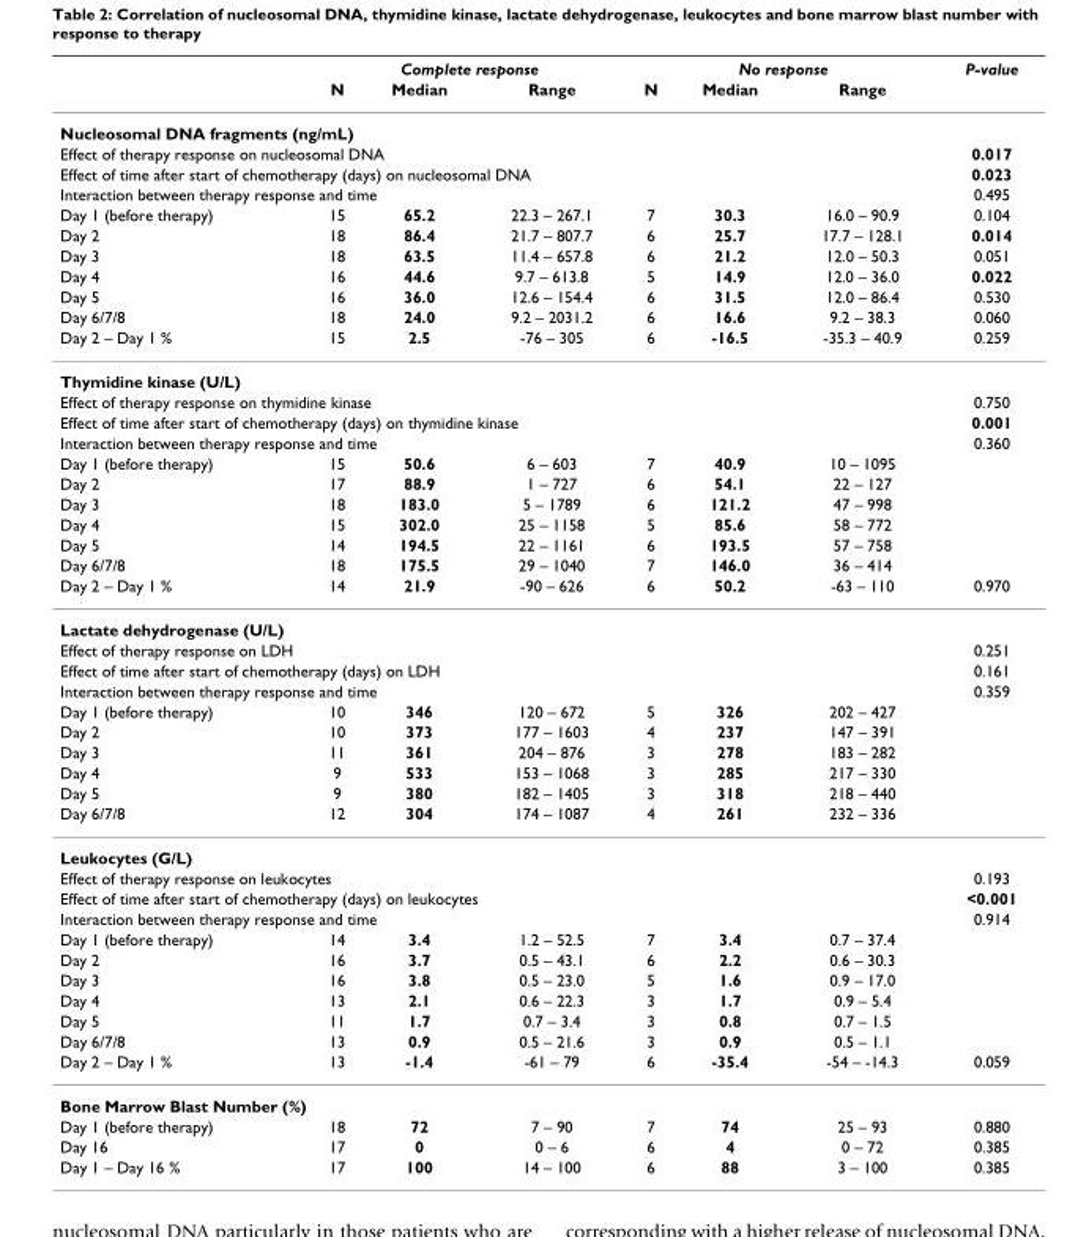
<table><thead><tr><td rowspan="2"></td><td colspan="3">Complete response</td><td colspan="3">No response</td><td rowspan="2">P-value</td></tr><tr><td>N</td><td>Median</td><td>Range</td><td>N</td><td>Median</td><td>Range</td></tr></thead><tbody><tr><td colspan="8">Nucleosomal DNA fragments (ng/mL)</td></tr><tr><td colspan="7">Effect of therapy response on nucleosomal DNA</td><td>0.017</td></tr><tr><td colspan="7">Effect of time after start of chemotherapy (days) on nucleosomal DNA</td><td>0.023</td></tr><tr><td colspan="7">Interaction between therapy response and time</td><td>0.495</td></tr><tr><td>Day 1 (before therapy)</td><td>15</td><td>65.2</td><td>22.3 – 267.1</td><td>7</td><td>30.3</td><td>16.0 – 90.9</td><td>0.104</td></tr><tr><td>Day 2</td><td>18</td><td>86.4</td><td>21.7 – 807.7</td><td>6</td><td>25.7</td><td>17.7 – 128.1</td><td>0.014</td></tr><tr><td>Day 3</td><td>18</td><td>63.5</td><td>11.4 – 657.8</td><td>6</td><td>21.2</td><td>12.0 – 50.3</td><td>0.051</td></tr><tr><td>Day 4</td><td>16</td><td>44.6</td><td>9.7 – 613.8</td><td>5</td><td>14.9</td><td>12.0 – 36.0</td><td>0.022</td></tr><tr><td>Day 5</td><td>16</td><td>36.0</td><td>12.6 – 154.4</td><td>6</td><td>31.5</td><td>12.0 – 86.4</td><td>0.530</td></tr><tr><td>Day 6/7/8</td><td>18</td><td>24.0</td><td>9.2 – 2031.2</td><td>6</td><td>16.6</td><td>9.2 – 38.3</td><td>0.060</td></tr><tr><td>Day 2 – Day 1 %</td><td>15</td><td>2.5</td><td>-76 – 305</td><td>6</td><td>-16.5</td><td>-35.3 – 40.9</td><td>0.259</td></tr><tr><td colspan="8">Thymidine kinase (U/L)</td></tr><tr><td colspan="7">Effect of therapy response on thymidine kinase</td><td>0.750</td></tr><tr><td colspan="7">Effect of time after start of chemotherapy (days) on thymidine kinase</td><td>0.001</td></tr><tr><td colspan="7">Interaction between therapy response and time</td><td>0.360</td></tr><tr><td>Day 1 (before therapy)</td><td>15</td><td>50.6</td><td>6 – 603</td><td>7</td><td>40.9</td><td>10 – 1095</td><td></td></tr><tr><td>Day 2</td><td>17</td><td>88.9</td><td>1 – 727</td><td>6</td><td>54.1</td><td>22 – 127</td><td></td></tr><tr><td>Day 3</td><td>18</td><td>183.0</td><td>5 – 1789</td><td>6</td><td>121.2</td><td>47 – 998</td><td></td></tr><tr><td>Day 4</td><td>15</td><td>302.0</td><td>25 – 1158</td><td>5</td><td>85.6</td><td>58 – 772</td><td></td></tr><tr><td>Day 5</td><td>14</td><td>194.5</td><td>22 – 1161</td><td>6</td><td>193.5</td><td>57 – 758</td><td></td></tr><tr><td>Day 6/7/8</td><td>18</td><td>175.5</td><td>29 – 1040</td><td>7</td><td>146.0</td><td>36 – 414</td><td></td></tr><tr><td>Day 2 – Day 1 %</td><td>14</td><td>21.9</td><td>-90 – 626</td><td>6</td><td>50.2</td><td>-63 – 110</td><td>0.970</td></tr><tr><td colspan="8">Lactate dehydrogenase (U/L)</td></tr><tr><td colspan="7">Effect of therapy response on LDH</td><td>0.251</td></tr><tr><td colspan="7">Effect of time after start of chemotherapy (days) on LDH</td><td>0.161</td></tr><tr><td colspan="7">Interaction between therapy response and time</td><td>0.359</td></tr><tr><td>Day 1 (before therapy)</td><td>10</td><td>346</td><td>120 – 672</td><td>5</td><td>326</td><td>202 – 427</td><td></td></tr><tr><td>Day 2</td><td>10</td><td>373</td><td>177 – 1603</td><td>4</td><td>237</td><td>147 – 391</td><td></td></tr><tr><td>Day 3</td><td>11</td><td>361</td><td>204 – 876</td><td>3</td><td>278</td><td>183 – 282</td><td></td></tr><tr><td>Day 4</td><td>9</td><td>533</td><td>153 – 1068</td><td>3</td><td>285</td><td>217 – 330</td><td></td></tr><tr><td>Day 5</td><td>9</td><td>380</td><td>182 – 1405</td><td>3</td><td>318</td><td>218 – 440</td><td></td></tr><tr><td>Day 6/7/8</td><td>12</td><td>304</td><td>174 – 1087</td><td>4</td><td>261</td><td>232 – 336</td><td></td></tr><tr><td colspan="8">Leukocytes (G/L)</td></tr><tr><td colspan="7">Effect of therapy response on leukocytes</td><td>0.193</td></tr><tr><td colspan="7">Effect of time after start of chemotherapy (days) on leukocytes</td><td>&lt;0.001</td></tr><tr><td colspan="7">Interaction between therapy response and time</td><td>0.914</td></tr><tr><td>Day 1 (before therapy)</td><td>14</td><td>3.4</td><td>1.2 – 52.5</td><td>7</td><td>3.4</td><td>0.7 – 37.4</td><td></td></tr><tr><td>Day 2</td><td>16</td><td>3.7</td><td>0.5 – 43.1</td><td>6</td><td>2.2</td><td>0.6 – 30.3</td><td></td></tr><tr><td>Day 3</td><td>16</td><td>3.8</td><td>0.5 – 23.0</td><td>5</td><td>1.6</td><td>0.9 – 17.0</td><td></td></tr><tr><td>Day 4</td><td>13</td><td>2.1</td><td>0.6 – 22.3</td><td>3</td><td>1.7</td><td>0.9 – 5.4</td><td></td></tr><tr><td>Day 5</td><td>11</td><td>1.7</td><td>0.7 – 3.4</td><td>3</td><td>0.8</td><td>0.7 – 1.5</td><td></td></tr><tr><td>Day 6/7/8</td><td>13</td><td>0.9</td><td>0.5 – 21.6</td><td>3</td><td>0.9</td><td>0.5 – 1.1</td><td></td></tr><tr><td>Day 2 – Day 1 %</td><td>13</td><td>-1.4</td><td>-61 – 79</td><td>6</td><td>-35.4</td><td>-54 – -14.3</td><td>0.059</td></tr><tr><td colspan="8">Bone Marrow Blast Number (%)</td></tr><tr><td>Day 1 (before therapy)</td><td>18</td><td>72</td><td>7 – 90</td><td>7</td><td>74</td><td>25 – 93</td><td>0.880</td></tr><tr><td>Day 16</td><td>17</td><td>0</td><td>0 – 6</td><td>6</td><td>4</td><td>0 – 72</td><td>0.385</td></tr><tr><td>Day 1 – Day 16 %</td><td>17</td><td>100</td><td>14 – 100</td><td>6</td><td>88</td><td>3 – 100</td><td>0.385</td></tr></tbody></table>